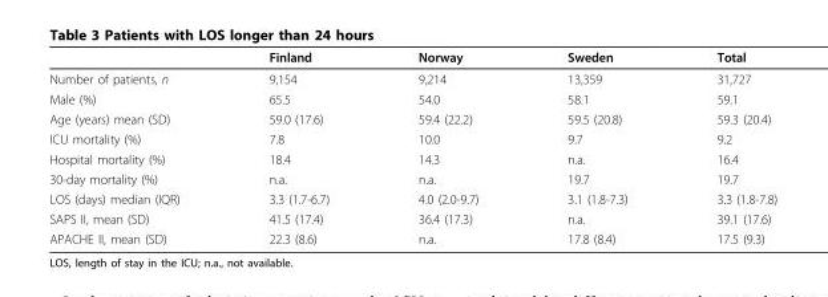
<table><thead><tr><td></td><td>Finland</td><td>Norway</td><td>Sweden</td><td>Total</td></tr></thead><tbody><tr><td>Number of patients, n</td><td>9,154</td><td>9,214</td><td>13,359</td><td>31,727</td></tr><tr><td>Male (%)</td><td>65.5</td><td>54.0</td><td>58.1</td><td>59.1</td></tr><tr><td>Age (years) mean (SD)</td><td>59.0 (17.6)</td><td>59.4 (22.2)</td><td>59.5 (20.8)</td><td>59.3 (20.4)</td></tr><tr><td>ICU mortality (%)</td><td>7.8</td><td>10.0</td><td>9.7</td><td>9.2</td></tr><tr><td>Hospital mortality (%)</td><td>18.4</td><td>14.3</td><td>n.a.</td><td>16.4</td></tr><tr><td>30-day mortality (%)</td><td>n.a.</td><td>n.a.</td><td>19.7</td><td>19.7</td></tr><tr><td>LOS (days) median (IQR)</td><td>3.3 (1.7-6.7)</td><td>4.0 (2.0-9.7)</td><td>3.1 (1.8-7.3)</td><td>3.3 (1.8-7.8)</td></tr><tr><td>SAPS II, mean (SD)</td><td>41.5 (17.4)</td><td>36.4 (17.3)</td><td>n.a.</td><td>39.1 (17.6)</td></tr><tr><td>APACHE II, mean (SD)</td><td>22.3 (8.6)</td><td>n.a.</td><td>17.8 (8.4)</td><td>17.5 (9.3)</td></tr></tbody></table>